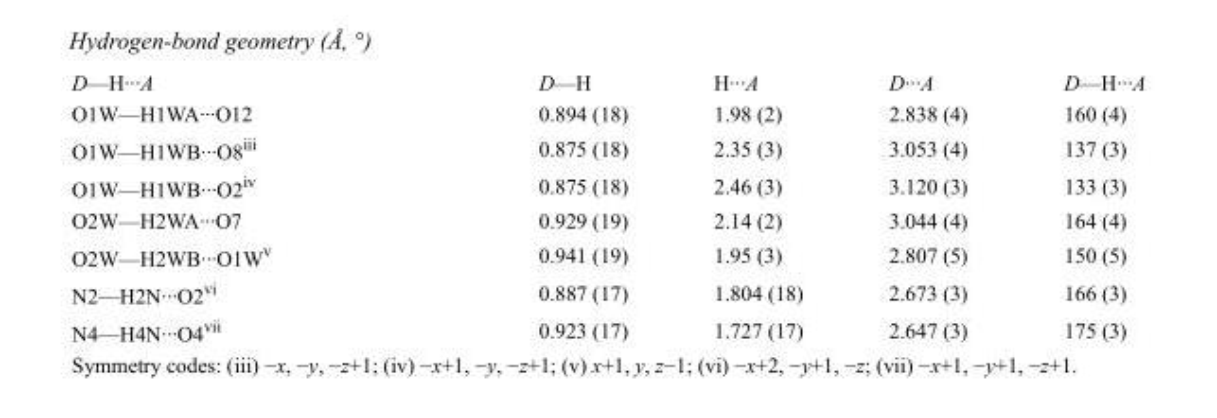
<table><tbody><tr><td>D—H···A</td><td>D—H</td><td>H···A</td><td>D···A</td><td>D—H···A</td></tr><tr><td>O1W—H1WA···O12</td><td>0.894 (18)</td><td>1.98 (2)</td><td>2.838 (4)</td><td>160 (4)</td></tr><tr><td>O1W—H1WB···O8<sup>iii</sup></td><td>0.875 (18)</td><td>2.35 (3)</td><td>3.053 (4)</td><td>137 (3)</td></tr><tr><td>O1W—H1WB···O2<sup>iv</sup></td><td>0.875 (18)</td><td>2.46 (3)</td><td>3.120 (3)</td><td>133 (3)</td></tr><tr><td>O2W—H2WA···O7</td><td>0.929 (19)</td><td>2.14 (2)</td><td>3.044 (4)</td><td>164 (4)</td></tr><tr><td>O2W—H2WB···O1W<sup>v</sup></td><td>0.941 (19)</td><td>1.95 (3)</td><td>2.807 (5)</td><td>150 (5)</td></tr><tr><td>N2—H2N···O2<sup>vi</sup></td><td>0.887 (17)</td><td>1.804 (18)</td><td>2.673 (3)</td><td>166 (3)</td></tr><tr><td>N4—H4N···O4<sup>vii</sup></td><td>0.923 (17)</td><td>1.727 (17)</td><td>2.647 (3)</td><td>175 (3)</td></tr></tbody></table>